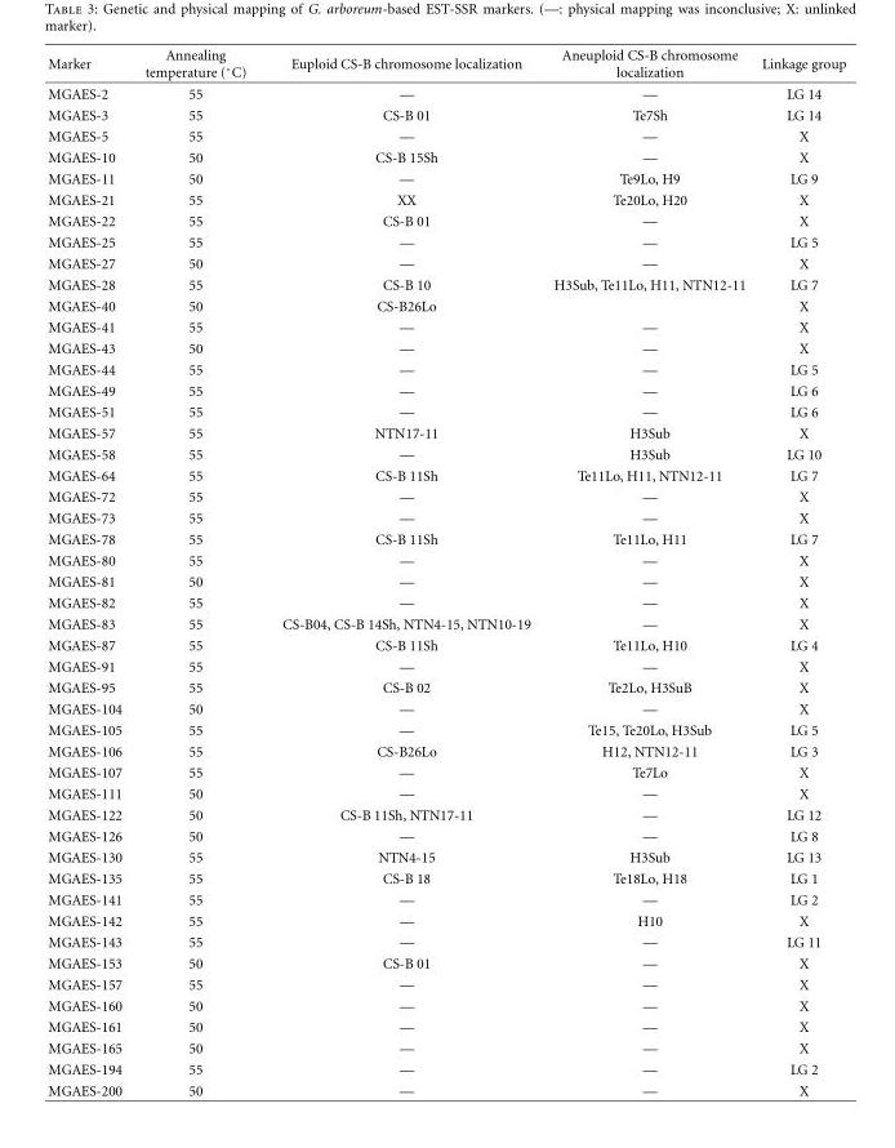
<table><thead><tr><td>Marker</td><td>Annealing temperature (◦C)</td><td>Euploid CS-B chromosome localization</td><td>Aneuploid CS-B chromosome localization</td><td>Linkage group</td></tr></thead><tbody><tr><td>MGAES-2</td><td>55</td><td>—</td><td>—</td><td>LG 14</td></tr><tr><td>MGAES-3</td><td>55</td><td>CS-B 01</td><td>Te7Sh</td><td>LG 14</td></tr><tr><td>MGAES-5</td><td>55</td><td>—</td><td>—</td><td>X</td></tr><tr><td>MGAES-10</td><td>50</td><td>CS-B 15Sh</td><td>—</td><td>X</td></tr><tr><td>MGAES-11</td><td>50</td><td>—</td><td>Te9Lo, H9</td><td>LG 9</td></tr><tr><td>MGAES-21</td><td>55</td><td>XX</td><td>Te20Lo, H20</td><td>X</td></tr><tr><td>MGAES-22</td><td>55</td><td>CS-B 01</td><td>—</td><td>X</td></tr><tr><td>MGAES-25</td><td>55</td><td>—</td><td>—</td><td>LG 5</td></tr><tr><td>MGAES-27</td><td>50</td><td>—</td><td>—</td><td>X</td></tr><tr><td>MGAES-28</td><td>55</td><td>CS-B 10</td><td>H3Sub, Te11Lo, H11, NTN12-11</td><td>LG 7</td></tr><tr><td>MGAES-40</td><td>50</td><td>CS-B26Lo</td><td></td><td>X</td></tr><tr><td>MGAES-41</td><td>55</td><td>—</td><td>—</td><td>X</td></tr><tr><td>MGAES-43</td><td>50</td><td>—</td><td>—</td><td>X</td></tr><tr><td>MGAES-44</td><td>55</td><td>—</td><td>—</td><td>LG 5</td></tr><tr><td>MGAES-49</td><td>55</td><td>—</td><td>—</td><td>LG 6</td></tr><tr><td>MGAES-51</td><td>55</td><td>—</td><td>—</td><td>LG 6</td></tr><tr><td>MGAES-57</td><td>55</td><td>NTN17-11</td><td>H3Sub</td><td>X</td></tr><tr><td>MGAES-58</td><td>55</td><td>—</td><td>H3Sub</td><td>LG 10</td></tr><tr><td>MGAES-64</td><td>55</td><td>CS-B 11Sh</td><td>Te11Lo, H11, NTN12-11</td><td>LG 7</td></tr><tr><td>MGAES-72</td><td>55</td><td>—</td><td>—</td><td>X</td></tr><tr><td>MGAES-73</td><td>55</td><td>—</td><td>—</td><td>X</td></tr><tr><td>MGAES-78</td><td>55</td><td>CS-B 11Sh</td><td>Te11Lo, H11</td><td>LG 7</td></tr><tr><td>MGAES-80</td><td>55</td><td>—</td><td>—</td><td>X</td></tr><tr><td>MGAES-81</td><td>50</td><td>—</td><td>—</td><td>X</td></tr><tr><td>MGAES-82</td><td>55</td><td>—</td><td>—</td><td>X</td></tr><tr><td>MGAES-83</td><td>55</td><td>CS-B04, CS-B 14Sh, NTN4-15, NTN10-19</td><td>—</td><td>X</td></tr><tr><td>MGAES-87</td><td>55</td><td>CS-B 11Sh</td><td>Te11Lo, H10</td><td>LG 4</td></tr><tr><td>MGAES-91</td><td>55</td><td>—</td><td>—</td><td>X</td></tr><tr><td>MGAES-95</td><td>55</td><td>CS-B 02</td><td>Te2Lo, H3SuB</td><td>X</td></tr><tr><td>MGAES-104</td><td>50</td><td>—</td><td>—</td><td>X</td></tr><tr><td>MGAES-105</td><td>55</td><td>—</td><td>Te15, Te20Lo, H3Sub</td><td>LG 5</td></tr><tr><td>MGAES-106</td><td>55</td><td>CS-B26Lo</td><td>H12, NTN12-11</td><td>LG 3</td></tr><tr><td>MGAES-107</td><td>55</td><td>—</td><td>Te7Lo</td><td>X</td></tr><tr><td>MGAES-111</td><td>50</td><td>—</td><td>—</td><td>X</td></tr><tr><td>MGAES-122</td><td>50</td><td>CS-B 11Sh, NTN17-11</td><td>—</td><td>LG 12</td></tr><tr><td>MGAES-126</td><td>50</td><td>—</td><td>—</td><td>LG 8</td></tr><tr><td>MGAES-130</td><td>55</td><td>NTN4-15</td><td>H3Sub</td><td>LG 13</td></tr><tr><td>MGAES-135</td><td>55</td><td>CS-B 18</td><td>Te18Lo, H18</td><td>LG 1</td></tr><tr><td>MGAES-141</td><td>55</td><td>—</td><td>—</td><td>LG 2</td></tr><tr><td>MGAES-142</td><td>55</td><td>—</td><td>H10</td><td>X</td></tr><tr><td>MGAES-143</td><td>55</td><td>—</td><td>—</td><td>LG 11</td></tr><tr><td>MGAES-153</td><td>50</td><td>CS-B 01</td><td>—</td><td>X</td></tr><tr><td>MGAES-157</td><td>55</td><td>—</td><td>—</td><td>X</td></tr><tr><td>MGAES-160</td><td>50</td><td>—</td><td>—</td><td>X</td></tr><tr><td>MGAES-161</td><td>50</td><td>—</td><td>—</td><td>X</td></tr><tr><td>MGAES-165</td><td>50</td><td>—</td><td>—</td><td>X</td></tr><tr><td>MGAES-194</td><td>55</td><td>—</td><td>—</td><td>LG 2</td></tr><tr><td>MGAES-200</td><td>50</td><td>—</td><td>—</td><td>X</td></tr></tbody></table>